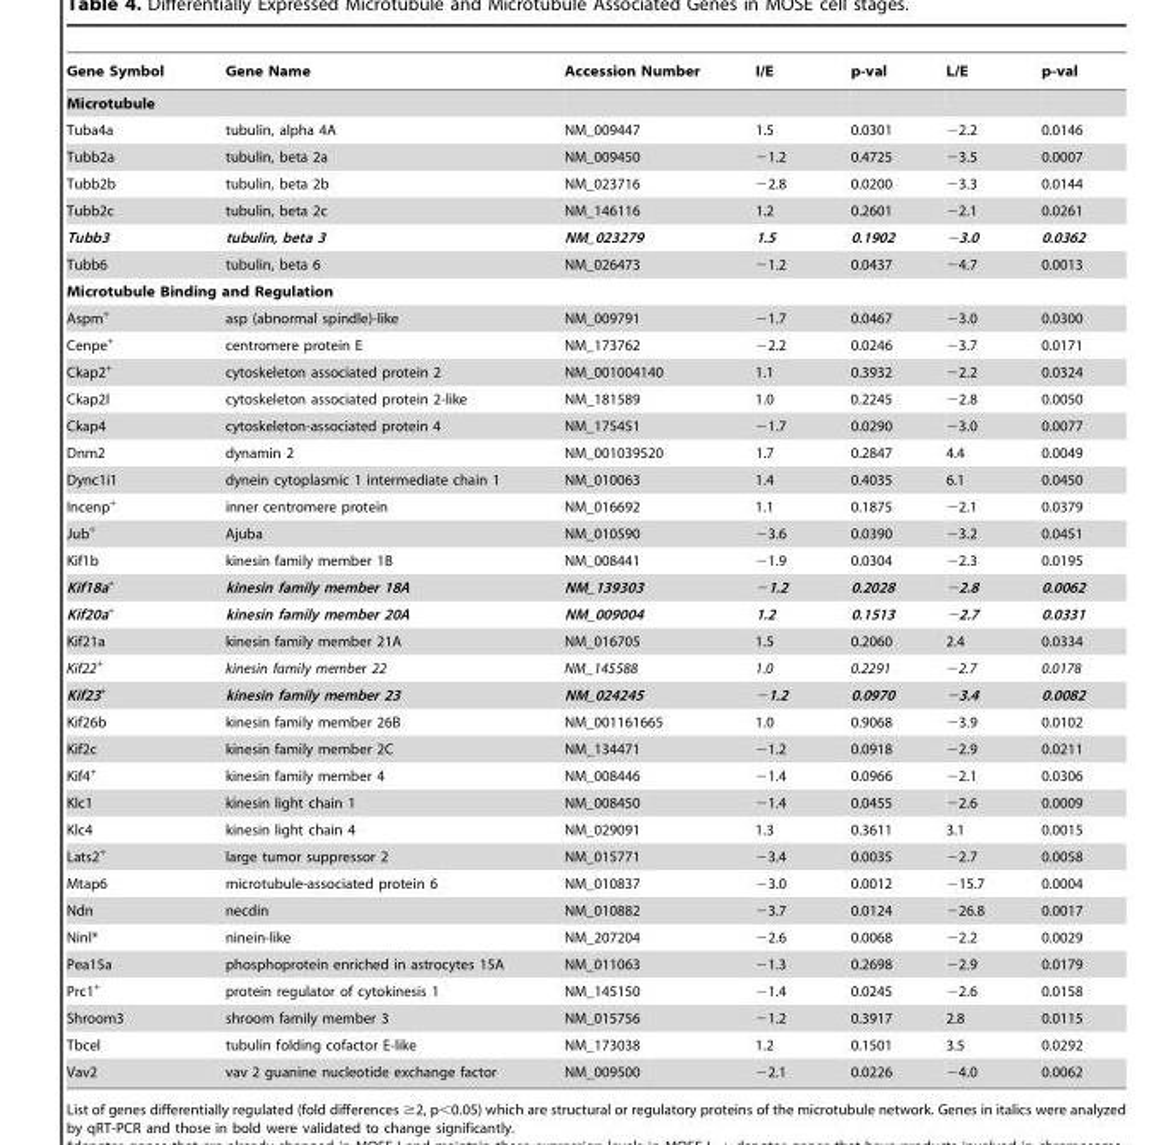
<table><thead><tr><td>Gene Symbol</td><td>Gene Name</td><td>Accession Number</td><td>I/E</td><td>p-val</td><td>L/E</td><td>p-val</td></tr></thead><tbody><tr><td colspan="7">Microtubule</td></tr><tr><td>Tuba4a</td><td>tubulin, alpha 4A</td><td>NM_009447</td><td>1.5</td><td>0.0301</td><td>−2.2</td><td>0.0146</td></tr><tr><td>Tubb2a</td><td>tubulin, beta 2a</td><td>NM_009450</td><td>−1.2</td><td>0.4725</td><td>−3.5</td><td>0.0007</td></tr><tr><td>Tubb2b</td><td>tubulin, beta 2b</td><td>NM_023716</td><td>−2.8</td><td>0.0200</td><td>−3.3</td><td>0.0144</td></tr><tr><td>Tubb2c</td><td>tubulin, beta 2c</td><td>NM_146116</td><td>1.2</td><td>0.2601</td><td>−2.1</td><td>0.0261</td></tr><tr><td>Tubb3</td><td>tubulin, beta 3</td><td>NM_023279</td><td>1.5</td><td>0.1902</td><td>−3.0</td><td>0.0362</td></tr><tr><td>Tubb6</td><td>tubulin, beta 6</td><td>NM_026473</td><td>−1.2</td><td>0.0437</td><td>−4.7</td><td>0.0013</td></tr><tr><td colspan="7">Microtubule Binding and Regulation</td></tr><tr><td>Aspm<sup>+</sup></td><td>asp (abnormal spindle)-like</td><td>NM_009791</td><td>−1.7</td><td>0.0467</td><td>−3.0</td><td>0.0300</td></tr><tr><td>Cenpe<sup>+</sup></td><td>centromere protein E</td><td>NM_173762</td><td>−2.2</td><td>0.0246</td><td>−3.7</td><td>0.0171</td></tr><tr><td>Ckap2<sup>+</sup></td><td>cytoskeleton associated protein 2</td><td>NM_001004140</td><td>1.1</td><td>0.3932</td><td>−2.2</td><td>0.0324</td></tr><tr><td>Ckap2l</td><td>cytoskeleton associated protein 2-like</td><td>NM_181589</td><td>1.0</td><td>0.2245</td><td>−2.8</td><td>0.0050</td></tr><tr><td>Ckap4</td><td>cytoskeleton-associated protein 4</td><td>NM_175451</td><td>−1.7</td><td>0.0290</td><td>−3.0</td><td>0.0077</td></tr><tr><td>Dnm2</td><td>dynamin 2</td><td>NM_001039520</td><td>1.7</td><td>0.2847</td><td>4.4</td><td>0.0049</td></tr><tr><td>Dync1i1</td><td>dynein cytoplasmic 1 intermediate chain 1</td><td>NM_010063</td><td>1.4</td><td>0.4035</td><td>6.1</td><td>0.0450</td></tr><tr><td>Incenp<sup>+</sup></td><td>inner centromere protein</td><td>NM_016692</td><td>1.1</td><td>0.1875</td><td>−2.1</td><td>0.0379</td></tr><tr><td>Jub<sup>+</sup></td><td>Ajuba</td><td>NM_010590</td><td>−3.6</td><td>0.0390</td><td>−3.2</td><td>0.0451</td></tr><tr><td>Kif1b</td><td>kinesin family member 1B</td><td>NM_008441</td><td>−1.9</td><td>0.0304</td><td>−2.3</td><td>0.0195</td></tr><tr><td>Kif18a<sup>+</sup></td><td>kinesin family member 18A</td><td>NM_139303</td><td>−1.2</td><td>0.2028</td><td>−2.8</td><td>0.0062</td></tr><tr><td>Kif20a<sup>+</sup></td><td>kinesin family member 20A</td><td>NM_009004</td><td>1.2</td><td>0.1513</td><td>−2.7</td><td>0.0331</td></tr><tr><td>Kif21a</td><td>kinesin family member 21A</td><td>NM_016705</td><td>1.5</td><td>0.2060</td><td>2.4</td><td>0.0334</td></tr><tr><td>Kif22<sup>+</sup></td><td>kinesin family member 22</td><td>NM_145588</td><td>1.0</td><td>0.2291</td><td>−2.7</td><td>0.0178</td></tr><tr><td>Kif23<sup>+</sup></td><td>kinesin family member 23</td><td>NM_024245</td><td>−1.2</td><td>0.0970</td><td>−3.4</td><td>0.0082</td></tr><tr><td>Kif26b</td><td>kinesin family member 26B</td><td>NM_001161665</td><td>1.0</td><td>0.9068</td><td>−3.9</td><td>0.0102</td></tr><tr><td>Kif2c</td><td>kinesin family member 2C</td><td>NM_134471</td><td>−1.2</td><td>0.0918</td><td>−2.9</td><td>0.0211</td></tr><tr><td>Kif4<sup>+</sup></td><td>kinesin family member 4</td><td>NM_008446</td><td>−1.4</td><td>0.0966</td><td>−2.1</td><td>0.0306</td></tr><tr><td>Klc1</td><td>kinesin light chain 1</td><td>NM_008450</td><td>−1.4</td><td>0.0455</td><td>−2.6</td><td>0.0009</td></tr><tr><td>Klc4</td><td>kinesin light chain 4</td><td>NM_029091</td><td>1.3</td><td>0.3611</td><td>3.1</td><td>0.0015</td></tr><tr><td>Lats2<sup>+</sup></td><td>large tumor suppressor 2</td><td>NM_015771</td><td>−3.4</td><td>0.0035</td><td>−2.7</td><td>0.0058</td></tr><tr><td>Mtap6</td><td>microtubule-associated protein 6</td><td>NM_010837</td><td>−3.0</td><td>0.0012</td><td>−15.7</td><td>0.0004</td></tr><tr><td>Ndn</td><td>necdin</td><td>NM_010882</td><td>−3.7</td><td>0.0124</td><td>−26.8</td><td>0.0017</td></tr><tr><td>Ninl*</td><td>ninein-like</td><td>NM_207204</td><td>−2.6</td><td>0.0068</td><td>−2.2</td><td>0.0029</td></tr><tr><td>Pea15a</td><td>phosphoprotein enriched in astrocytes 15A</td><td>NM_011063</td><td>−1.3</td><td>0.2698</td><td>−2.9</td><td>0.0179</td></tr><tr><td>Prc1<sup>+</sup></td><td>protein regulator of cytokinesis 1</td><td>NM_145150</td><td>−1.4</td><td>0.0245</td><td>−2.6</td><td>0.0158</td></tr><tr><td>Shroom3</td><td>shroom family member 3</td><td>NM_015756</td><td>−1.2</td><td>0.3917</td><td>2.8</td><td>0.0115</td></tr><tr><td>Tbcel</td><td>tubulin folding cofactor E-like</td><td>NM_173038</td><td>1.2</td><td>0.1501</td><td>3.5</td><td>0.0292</td></tr><tr><td>Vav2</td><td>vav 2 guanine nucleotide exchange factor</td><td>NM_009500</td><td>−2.1</td><td>0.0226</td><td>−4.0</td><td>0.0062</td></tr></tbody></table>